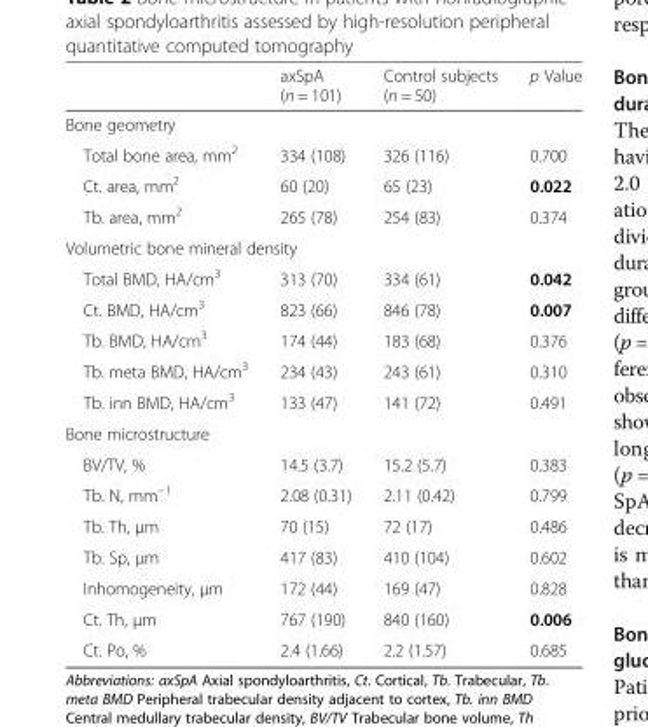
<table><thead><tr><td></td><td>axSpA (n = 101)</td><td>Control subjects (n = 50)</td><td>p Value</td></tr></thead><tbody><tr><td colspan="4">Bone geometry</td></tr><tr><td>Total bone area, mm<sup>2</sup></td><td>334 (108)</td><td>326 (116)</td><td>0.700</td></tr><tr><td>Ct. area, mm<sup>2</sup></td><td>60 (20)</td><td>65 (23)</td><td>0.022</td></tr><tr><td>Tb. area, mm<sup>2</sup></td><td>265 (78)</td><td>254 (83)</td><td>0.374</td></tr><tr><td colspan="4">Volumetric bone mineral density</td></tr><tr><td>Total BMD, HA/cm<sup>3</sup></td><td>313 (70)</td><td>334 (61)</td><td>0.042</td></tr><tr><td>Ct. BMD, HA/cm<sup>3</sup></td><td>823 (66)</td><td>846 (78)</td><td>0.007</td></tr><tr><td>Tb. BMD, HA/cm<sup>3</sup></td><td>174 (44)</td><td>183 (68)</td><td>0.376</td></tr><tr><td>Tb. meta BMD, HA/cm<sup>3</sup></td><td>234 (43)</td><td>243 (61)</td><td>0.310</td></tr><tr><td>Tb. inn BMD, HA/cm<sup>3</sup></td><td>133 (47)</td><td>141 (72)</td><td>0.491</td></tr><tr><td colspan="4">Bone microstructure</td></tr><tr><td>BV/TV, %</td><td>14.5 (3.7)</td><td>15.2 (5.7)</td><td>0.383</td></tr><tr><td>Tb. N, mm<sup>−1</sup></td><td>2.08 (0.31)</td><td>2.11 (0.42)</td><td>0.799</td></tr><tr><td>Tb. Th, μm</td><td>70 (15)</td><td>72 (17)</td><td>0.486</td></tr><tr><td>Tb. Sp, μm</td><td>417 (83)</td><td>410 (104)</td><td>0.602</td></tr><tr><td>Inhomogeneity, μm</td><td>172 (44)</td><td>169 (47)</td><td>0.828</td></tr><tr><td>Ct. Th, μm</td><td>767 (190)</td><td>840 (160)</td><td>0.006</td></tr><tr><td>Ct. Po, %</td><td>2.4 (1.66)</td><td>2.2 (1.57)</td><td>0.685</td></tr></tbody></table>